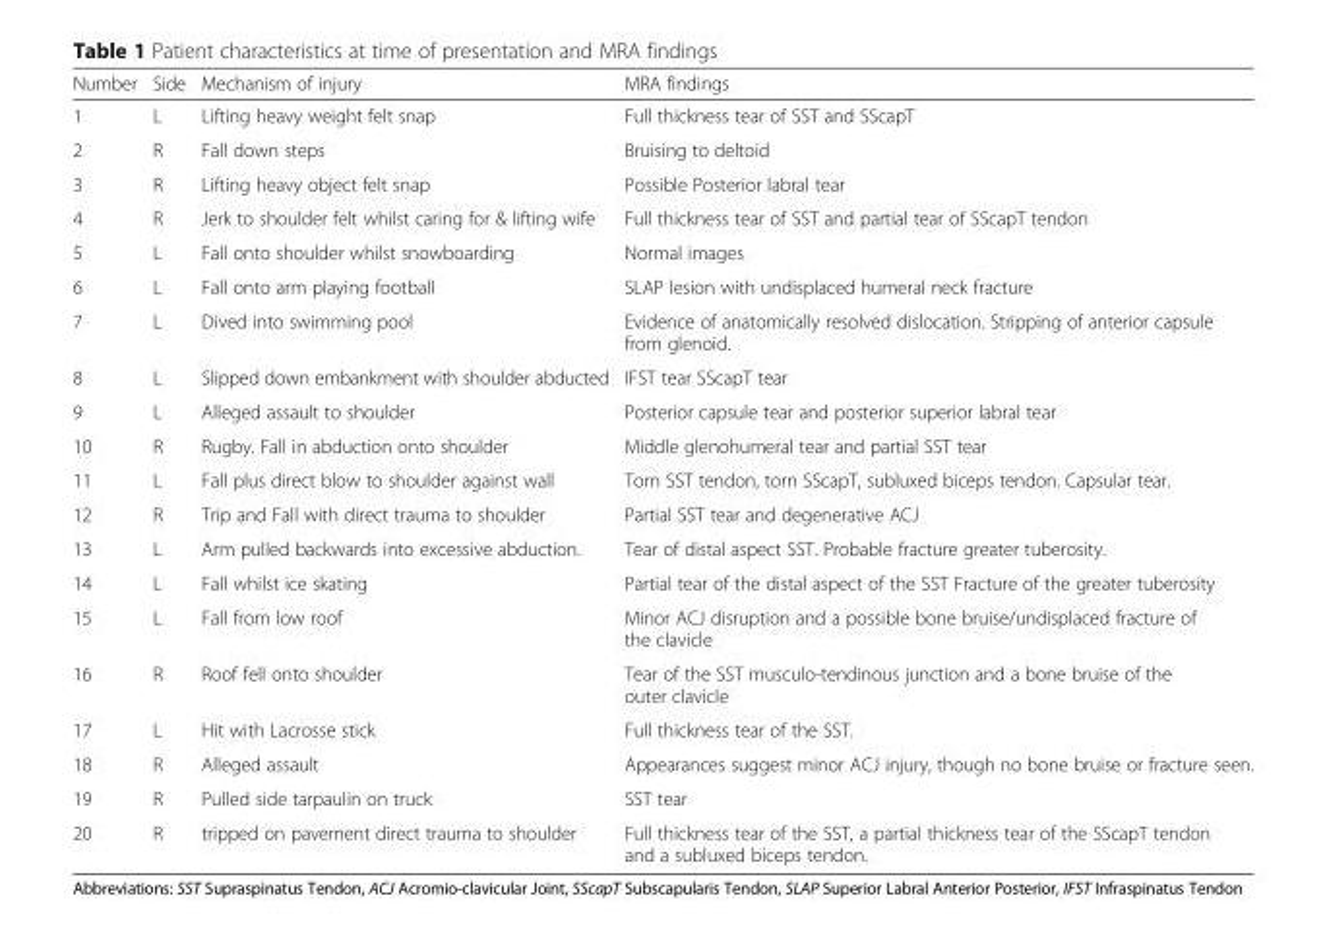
<table><thead><tr><td>Number</td><td>Side</td><td>Mechanism of injury</td><td>MRA findings</td></tr></thead><tbody><tr><td>1</td><td>L</td><td>Lifting heavy weight felt snap</td><td>Full thickness tear of SST and SScapT</td></tr><tr><td>2</td><td>R</td><td>Fall down steps</td><td>Bruising to deltoid</td></tr><tr><td>3</td><td>R</td><td>Lifting heavy object felt snap</td><td>Possible Posterior labral tear</td></tr><tr><td>4</td><td>R</td><td>Jerk to shoulder felt whilst caring for &amp; lifting wife</td><td>Full thickness tear of SST and partial tear of SScapT tendon</td></tr><tr><td>5</td><td>L</td><td>Fall onto shoulder whilst snowboarding</td><td>Normal images</td></tr><tr><td>6</td><td>L</td><td>Fall onto arm playing football</td><td>SLAP lesion with undisplaced humeral neck fracture</td></tr><tr><td>7</td><td>L</td><td>Dived into swimming pool</td><td>Evidence of anatomically resolved dislocation. Stripping of anterior capsule from glenoid.</td></tr><tr><td>8</td><td>L</td><td>Slipped down embankment with shoulder abducted</td><td>IFST tear SScapT tear</td></tr><tr><td>9</td><td>L</td><td>Alleged assault to shoulder</td><td>Posterior capsule tear and posterior superior labral tear</td></tr><tr><td>10</td><td>R</td><td>Rugby. Fall in abduction onto shoulder</td><td>Middle glenohumeral tear and partial SST tear</td></tr><tr><td>11</td><td>L</td><td>Fall plus direct blow to shoulder against wall</td><td>Torn SST tendon, torn SScapT, subluxed biceps tendon. Capsular tear.</td></tr><tr><td>12</td><td>R</td><td>Trip and Fall with direct trauma to shoulder</td><td>Partial SST tear and degenerative ACJ</td></tr><tr><td>13</td><td>L</td><td>Arm pulled backwards into excessive abduction.</td><td>Tear of distal aspect SST. Probable fracture greater tuberosity.</td></tr><tr><td>14</td><td>L</td><td>Fall whilst ice skating</td><td>Partial tear of the distal aspect of the SST Fracture of the greater tuberosity</td></tr><tr><td>15</td><td>L</td><td>Fall from low roof</td><td>Minor ACJ disruption and a possible bone bruise/undisplaced fracture of the clavicle</td></tr><tr><td>16</td><td>R</td><td>Roof fell onto shoulder</td><td>Tear of the SST musculo-tendinous junction and a bone bruise of the outer clavicle</td></tr><tr><td>17</td><td>L</td><td>Hit with Lacrosse stick</td><td>Full thickness tear of the SST.</td></tr><tr><td>18</td><td>R</td><td>Alleged assault</td><td>Appearances suggest minor ACJ injury, though no bone bruise or fracture seen.</td></tr><tr><td>19</td><td>R</td><td>Pulled side tarpaulin on truck</td><td>SST tear</td></tr><tr><td>20</td><td>R</td><td>tripped on pavement direct trauma to shoulder</td><td>Full thickness tear of the SST, a partial thickness tear of the SScapT tendon and a subluxed biceps tendon.</td></tr></tbody></table>